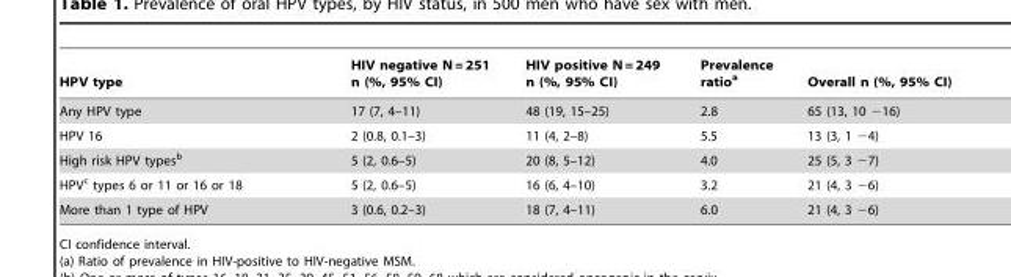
<table><thead><tr><td>HPV type</td><td>HIV negative N = 251 n (%, 95% CI)</td><td>HIV positive N = 249 n (%, 95% CI)</td><td>Prevalence ratio<sup>a</sup></td><td>Overall n (%, 95% CI)</td></tr></thead><tbody><tr><td>Any HPV type</td><td>17 (7, 4–11)</td><td>48 (19, 15–25)</td><td>2.8</td><td>65 (13, 10 −16)</td></tr><tr><td>HPV 16</td><td>2 (0.8, 0.1–3)</td><td>11 (4, 2–8)</td><td>5.5</td><td>13 (3, 1 −4)</td></tr><tr><td>High risk HPV types<sup>b</sup></td><td>5 (2, 0.6–5)</td><td>20 (8, 5–12)</td><td>4.0</td><td>25 (5, 3 −7)</td></tr><tr><td>HPV<sup>c</sup> types 6 or 11 or 16 or 18</td><td>5 (2, 0.6–5)</td><td>16 (6, 4–10)</td><td>3.2</td><td>21 (4, 3 −6)</td></tr><tr><td>More than 1 type of HPV</td><td>3 (0.6, 0.2–3)</td><td>18 (7, 4–11)</td><td>6.0</td><td>21 (4, 3 −6)</td></tr></tbody></table>